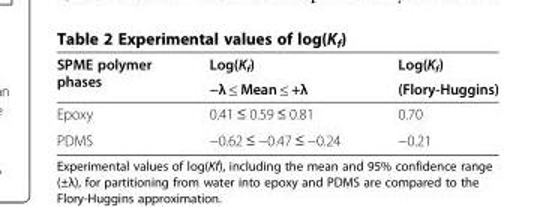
<table><thead><tr><td rowspan="2">SPME polymer phases</td><td rowspan="2">Log(K<sub>f</sub>) −λ ≤ Mean ≤ +λ</td><td rowspan="2">Log(K<sub>f</sub>) (Flory-Huggins)</td></tr><tr></tr></thead><tbody><tr><td>Epoxy</td><td>0.41 ≤ 0.59 ≤ 0.81</td><td>0.70</td></tr><tr><td>PDMS</td><td>−0.62 ≤ −0.47 ≤ −0.24</td><td>−0.21</td></tr></tbody></table>